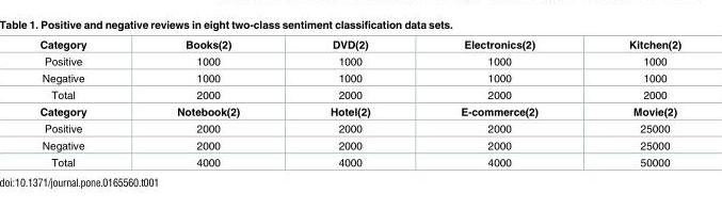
<table><tbody><tr><td>Category</td><td>Books(2)</td><td>DVD(2)</td><td>Electronics(2)</td><td>Kitchen(2)</td></tr><tr><td>Positive</td><td>1000</td><td>1000</td><td>1000</td><td>1000</td></tr><tr><td>Negative</td><td>1000</td><td>1000</td><td>1000</td><td>1000</td></tr><tr><td>Total</td><td>2000</td><td>2000</td><td>2000</td><td>2000</td></tr><tr><td>Category</td><td>Notebook(2)</td><td>Hotel(2)</td><td>E-commerce(2)</td><td>Movie(2)</td></tr><tr><td>Positive</td><td>2000</td><td>2000</td><td>2000</td><td>25000</td></tr><tr><td>Negative</td><td>2000</td><td>2000</td><td>2000</td><td>25000</td></tr><tr><td>Total</td><td>4000</td><td>4000</td><td>4000</td><td>50000</td></tr></tbody></table>